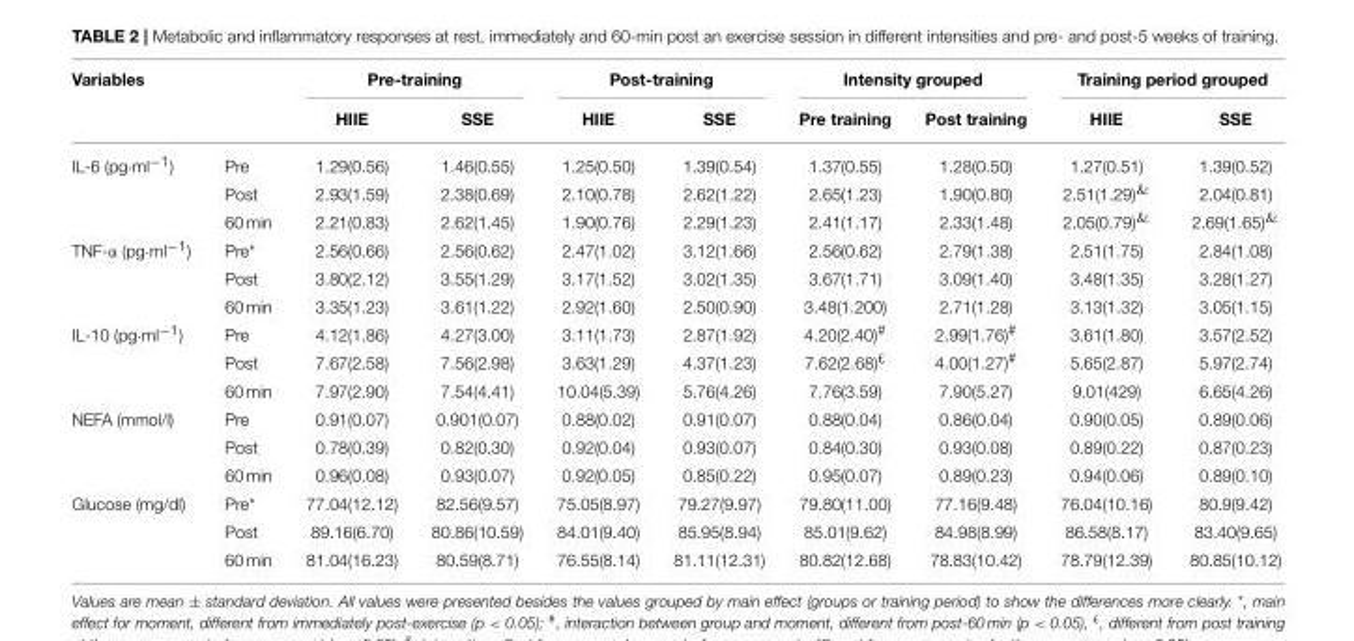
<table><thead><tr><td rowspan="2">Variables</td><td rowspan="2"></td><td colspan="2">Pre-training</td><td colspan="2">Post-training</td><td colspan="2">Intensity grouped</td><td colspan="2">Training period grouped</td></tr><tr><td>HIIE</td><td>SSE</td><td>HIIE</td><td>SSE</td><td>Pre training</td><td>Post training</td><td>HIIE</td><td>SSE</td></tr></thead><tbody><tr><td rowspan="3">IL-6 (pg·ml<sup>−1</sup>)</td><td>Pre</td><td>1.29(0.56)</td><td>1.46(0.55)</td><td>1.25(0.50)</td><td>1.39(0.54)</td><td>1.37(0.55)</td><td>1.28(0.50)</td><td>1.27(0.51)</td><td>1.39(0.52)</td></tr><tr><td>Post</td><td>2.93(1.59)</td><td>2.38(0.69)</td><td>2.10(0.78)</td><td>2.62(1.22)</td><td>2.65(1.23)</td><td>1.90(0.80)</td><td>2.51(1.29)<sup>&amp;</sup></td><td>2.04(0.81)</td></tr><tr><td>60 min</td><td>2.21(0.83)</td><td>2.62(1.45)</td><td>1.90(0.76)</td><td>2.29(1.23)</td><td>2.41(1.17)</td><td>2.33(1.48)</td><td>2.05(0.79)<sup>&amp;</sup></td><td>2.69(1.65)<sup>&amp;</sup></td></tr><tr><td rowspan="3">TNF-α (pg·ml<sup>−1</sup>)</td><td>Pre*</td><td>2.56(0.66)</td><td>2.56(0.62)</td><td>2.47(1.02)</td><td>3.12(1.66)</td><td>2.56(0.62)</td><td>2.79(1.38)</td><td>2.51(1.75)</td><td>2.84(1.08)</td></tr><tr><td>Post</td><td>3.80(2.12)</td><td>3.55(1.29)</td><td>3.17(1.52)</td><td>3.02(1.35)</td><td>3.67(1.71)</td><td>3.09(1.40)</td><td>3.48(1.35)</td><td>3.28(1.27)</td></tr><tr><td>60 min</td><td>3.35(1.23)</td><td>3.61(1.22)</td><td>2.92(1.60)</td><td>2.50(0.90)</td><td>3.48(1.200)</td><td>2.71(1.28)</td><td>3.13(1.32)</td><td>3.05(1.15)</td></tr><tr><td rowspan="3">IL-10 (pg·ml<sup>−1</sup>)</td><td>Pre</td><td>4.12(1.86)</td><td>4.27(3.00)</td><td>3.11(1.73)</td><td>2.87(1.92)</td><td>4.20(2.40)<sup>#</sup></td><td>2.99(1.76)<sup>#</sup></td><td>3.61(1.80)</td><td>3.57(2.52)</td></tr><tr><td>Post</td><td>7.67(2.58)</td><td>7.56(2.98)</td><td>3.63(1.29)</td><td>4.37(1.23)</td><td>7.62(2.68)<sup>£</sup></td><td>4.00(1.27)<sup>#</sup></td><td>5.65(2.87)</td><td>5.97(2.74)</td></tr><tr><td>60 min</td><td>7.97(2.90)</td><td>7.54(4.41)</td><td>10.04(5.39)</td><td>5.76(4.26)</td><td>7.76(3.59)</td><td>7.90(5.27)</td><td>9.01(429)</td><td>6.65(4.26)</td></tr><tr><td rowspan="3">NEFA (mmol/l)</td><td>Pre</td><td>0.91(0.07)</td><td>0.901(0.07)</td><td>0.88(0.02)</td><td>0.91(0.07)</td><td>0.88(0.04)</td><td>0.86(0.04)</td><td>0.90(0.05)</td><td>0.89(0.06)</td></tr><tr><td>Post</td><td>0.78(0.39)</td><td>0.82(0.30)</td><td>0.92(0.04)</td><td>0.93(0.07)</td><td>0.84(0.30)</td><td>0.93(0.08)</td><td>0.89(0.22)</td><td>0.87(0.23)</td></tr><tr><td>60 min</td><td>0.96(0.08)</td><td>0.93(0.07)</td><td>0.92(0.05)</td><td>0.85(0.22)</td><td>0.95(0.07)</td><td>0.89(0.23)</td><td>0.94(0.06)</td><td>0.89(0.10)</td></tr><tr><td rowspan="3">Glucose (mg/dl)</td><td>Pre*</td><td>77.04(12.12)</td><td>82.56(9.57)</td><td>75.05(8.97)</td><td>79.27(9.97)</td><td>79.80(11.00)</td><td>77.16(9.48)</td><td>76.04(10.16)</td><td>80.9(9.42)</td></tr><tr><td>Post</td><td>89.16(6.70)</td><td>80.86(10.59)</td><td>84.01(9.40)</td><td>85.95(8.94)</td><td>85.01(9.62)</td><td>84.98(8.99)</td><td>86.58(8.17)</td><td>83.40(9.65)</td></tr><tr><td>60 min</td><td>81.04(16.23)</td><td>80.59(8.71)</td><td>76.55(8.14)</td><td>81.11(12.31)</td><td>80.82(12.68)</td><td>78.83(10.42)</td><td>78.79(12.39)</td><td>80.85(10.12)</td></tr></tbody></table>